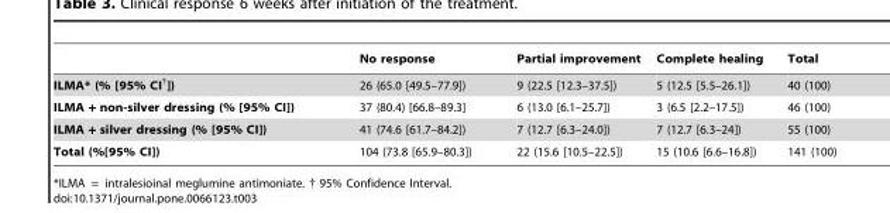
<table><thead><tr><td></td><td>No response</td><td>Partial improvement</td><td>Complete healing</td><td>Total</td></tr></thead><tbody><tr><td>ILMA* (% [95% CI<sup>†</sup>])</td><td>26 (65.0 [49.5–77.9])</td><td>9 (22.5 [12.3–37.5])</td><td>5 (12.5 [5.5–26.1])</td><td>40 (100)</td></tr><tr><td>ILMA + non-silver dressing (% [95% CI])</td><td>37 (80.4) [66.8–89.3]</td><td>6 (13.0 [6.1–25.7])</td><td>3 (6.5 [2.2–17.5])</td><td>46 (100)</td></tr><tr><td>ILMA + silver dressing (% [95% CI])</td><td>41 (74.6 [61.7–84.2])</td><td>7 (12.7 [6.3–24.0])</td><td>7 (12.7 [6.3–24])</td><td>55 (100)</td></tr><tr><td>Total (%[95% CI])</td><td>104 (73.8 [65.9–80.3])</td><td>22 (15.6 [10.5–22.5])</td><td>15 (10.6 [6.6–16.8])</td><td>141 (100)</td></tr></tbody></table>